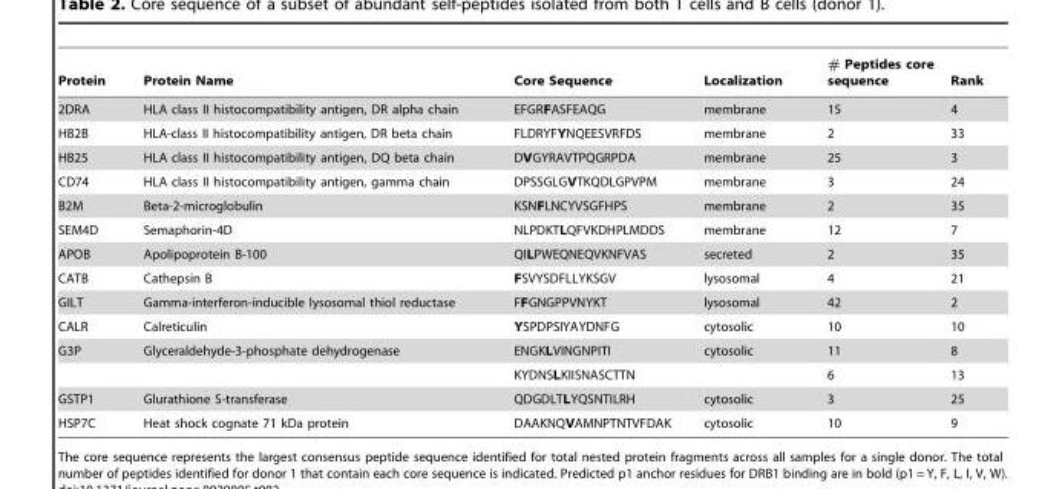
<table><thead><tr><td>Protein</td><td>Protein Name</td><td>Core Sequence</td><td>Localization</td><td># Peptides core sequence</td><td>Rank</td></tr></thead><tbody><tr><td>2DRA</td><td>HLA class II histocompatibility antigen, DR alpha chain</td><td>EFGRFASFEAQG</td><td>membrane</td><td>15</td><td>4</td></tr><tr><td>HB2B</td><td>HLA-class II histocompatibility antigen, DR beta chain</td><td>FLDRYFYNQEESVRFDS</td><td>membrane</td><td>2</td><td>33</td></tr><tr><td>HB25</td><td>HLA class II histocompatibility antigen, DQ beta chain</td><td>DVGYRAVTPQGRPDA</td><td>membrane</td><td>25</td><td>3</td></tr><tr><td>CD74</td><td>HLA class II histocompatibility antigen, gamma chain</td><td>DPSSGLGVTKQDLGPVPM</td><td>membrane</td><td>3</td><td>24</td></tr><tr><td>B2M</td><td>Beta-2-microglobulin</td><td>KSNFLNCYVSGFHPS</td><td>membrane</td><td>2</td><td>35</td></tr><tr><td>SEM4D</td><td>Semaphorin-4D</td><td>NLPDKTLQFVKDHPLMDDS</td><td>membrane</td><td>12</td><td>7</td></tr><tr><td>APOB</td><td>Apolipoprotein B-100</td><td>QILPWEQNEQVKNFVAS</td><td>secreted</td><td>2</td><td>35</td></tr><tr><td>CATB</td><td>Cathepsin B</td><td>FSVYSDFLLYKSGV</td><td>lysosomal</td><td>4</td><td>21</td></tr><tr><td>GILT</td><td>Gamma-interferon-inducible lysosomal thiol reductase</td><td>FFGNGPPVNYKT</td><td>lysosomal</td><td>42</td><td>2</td></tr><tr><td>CALR</td><td>Calreticulin</td><td>YSPDPSIYAYDNFG</td><td>cytosolic</td><td>10</td><td>10</td></tr><tr><td rowspan="2">G3P</td><td>Glyceraldehyde-3-phosphate dehydrogenase</td><td>ENGKLVINGNPITI</td><td>cytosolic</td><td>11</td><td>8</td></tr><tr><td></td><td>KYDNSLKIISNASCTTN</td><td></td><td>6</td><td>13</td></tr><tr><td>GSTP1</td><td>Glurathione S-transferase</td><td>QDGDLTLYQSNTILRH</td><td>cytosolic</td><td>3</td><td>25</td></tr><tr><td>HSP7C</td><td>Heat shock cognate 71 kDa protein</td><td>DAAKNQVAMNPTNTVFDAK</td><td>cytosolic</td><td>10</td><td>9</td></tr></tbody></table>